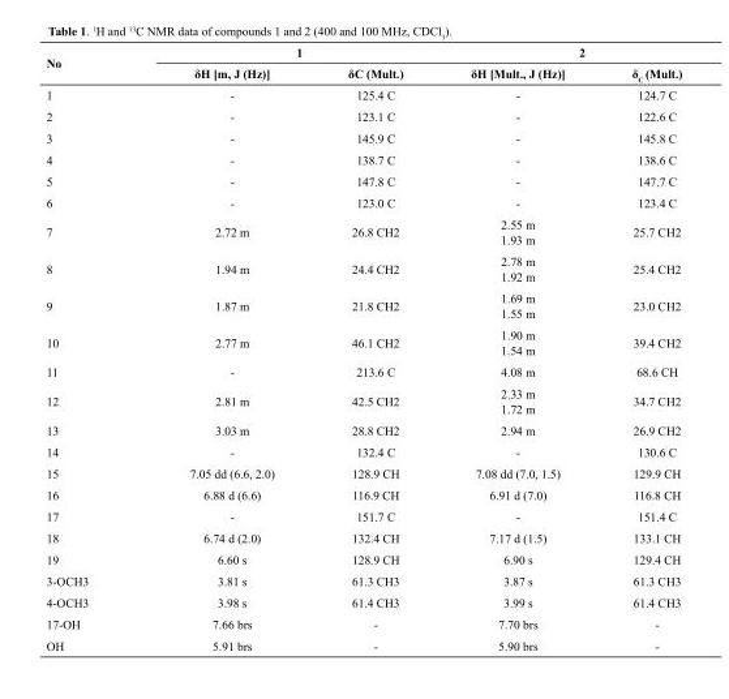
<table><thead><tr><td rowspan="2">No</td><td colspan="2">1</td><td colspan="2">2</td></tr><tr><td>δH [m, J (Hz)]</td><td>δC (Mult.)</td><td>δH [Mult., J (Hz)]</td><td>δC (Mult.)</td></tr></thead><tbody><tr><td>1</td><td>-</td><td>125.4 C</td><td>-</td><td>124.7 C</td></tr><tr><td>2</td><td>-</td><td>123.1 C</td><td>-</td><td>122.6 C</td></tr><tr><td>3</td><td>-</td><td>145.9 C</td><td>-</td><td>145.8 C</td></tr><tr><td>4</td><td>-</td><td>138.7 C</td><td>-</td><td>138.6 C</td></tr><tr><td>5</td><td>-</td><td>147.8 C</td><td>-</td><td>147.7 C</td></tr><tr><td>6</td><td>-</td><td>123.0 C</td><td>-</td><td>123.4 C</td></tr><tr><td>7</td><td>2.72 m</td><td>26.8 CH<sub>2</sub></td><td>2.55 m 1.93 m</td><td>25.7 CH<sub>2</sub></td></tr><tr><td>8</td><td>1.94 m</td><td>24.4 CH<sub>2</sub></td><td>2.78 m 1.92 m</td><td>25.4 CH<sub>2</sub></td></tr><tr><td>9</td><td>1.87 m</td><td>21.8 CH<sub>2</sub></td><td>1.69 m 1.55 m</td><td>23.0 CH<sub>2</sub></td></tr><tr><td>10</td><td>2.77 m</td><td>46.1 CH<sub>2</sub></td><td>1.90 m 1.54 m</td><td>39.4 CH<sub>2</sub></td></tr><tr><td>11</td><td>-</td><td>213.6 C</td><td>4.08 m</td><td>68.6 CH</td></tr><tr><td>12</td><td>2.81 m</td><td>42.5 CH<sub>2</sub></td><td>2.33 m 1.72 m</td><td>34.7 CH<sub>2</sub></td></tr><tr><td>13</td><td>3.03 m</td><td>28.8 CH<sub>2</sub></td><td>2.94 m</td><td>26.9 CH<sub>2</sub></td></tr><tr><td>14</td><td>-</td><td>132.4 C</td><td>-</td><td>130.6 C</td></tr><tr><td>15</td><td>7.05 dd (6.6, 2.0)</td><td>128.9 CH</td><td>7.08 dd (7.0, 1.5)</td><td>129.9 CH</td></tr><tr><td>16</td><td>6.88 d (6.6)</td><td>116.9 CH</td><td>6.91 d (7.0)</td><td>116.8 CH</td></tr><tr><td>17</td><td>-</td><td>151.7 C</td><td>-</td><td>151.4 C</td></tr><tr><td>18</td><td>6.74 d (2.0)</td><td>132.4 CH</td><td>7.17 d (1.5)</td><td>133.1 CH</td></tr><tr><td>19</td><td>6.60 s</td><td>128.9 CH</td><td>6.90 s</td><td>129.4 CH</td></tr><tr><td>3-OCH<sub>3</sub></td><td>3.81 s</td><td>61.3 CH<sub>3</sub></td><td>3.87 s</td><td>61.3 CH<sub>3</sub></td></tr><tr><td>4-OCH<sub>3</sub></td><td>3.98 s</td><td>61.4 CH<sub>3</sub></td><td>3.99 s</td><td>61.4 CH<sub>3</sub></td></tr><tr><td>17-OH</td><td>7.66 brs</td><td>-</td><td>7.70 brs</td><td>-</td></tr><tr><td>OH</td><td>5.91 brs</td><td>-</td><td>5.90 brs</td><td>-</td></tr></tbody></table>